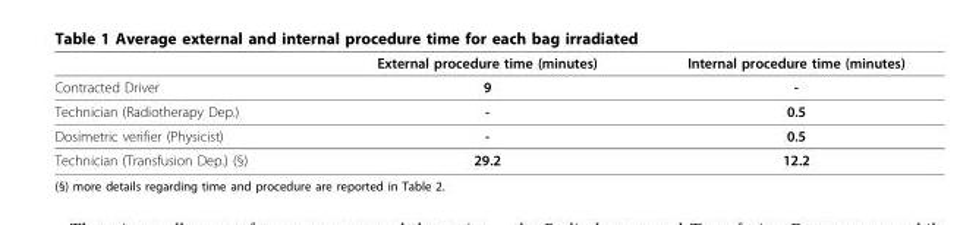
<table><thead><tr><td></td><td>External procedure time (minutes)</td><td>Internal procedure time (minutes)</td></tr></thead><tbody><tr><td>Contracted Driver</td><td>9</td><td>-</td></tr><tr><td>Technician (Radiotherapy Dep.)</td><td>-</td><td>0.5</td></tr><tr><td>Dosimetric verifier (Physicist)</td><td>-</td><td>0.5</td></tr><tr><td>Technician (Transfusion Dep.) (§)</td><td>29.2</td><td>12.2</td></tr></tbody></table>